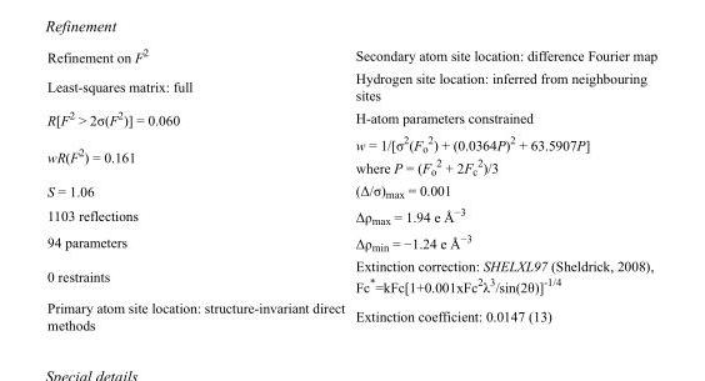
<table><tbody><tr><td>Refinement on F<sup>2</sup></td><td>Secondary atom site location: difference Fourier map</td></tr><tr><td>Least-squares matrix: full</td><td>Hydrogen site location: inferred from neighbouring sites</td></tr><tr><td>R[F<sup>2</sup> &gt; 2σ(F<sup>2</sup>)] = 0.060</td><td>H-atom parameters constrained</td></tr><tr><td>wR(F<sup>2</sup>) = 0.161</td><td>w = 1/[σ<sup>2</sup>(F<sub>o</sub> <sup>2</sup>) + (0.0364P)<sup>2</sup> + 63.5907P] where P = (F<sub>o</sub> <sup>2</sup> + 2F<sub>c</sub> <sup>2</sup>)/3</td></tr><tr><td>S = 1.06</td><td>(Δ/σ)<sub>max</sub> = 0.001</td></tr><tr><td>1103 reflections</td><td>Δρ<sub>max</sub> = 1.94 e Å<sup>−3</sup></td></tr><tr><td>94 parameters</td><td>Δρ<sub>min</sub> = −1.24 e Å<sup>−3</sup></td></tr><tr><td>0 restraints</td><td>Extinction correction: SHELXL97 (Sheldrick, 2008), Fc*=kFc[1+0.001xFc<sup>2</sup>λ<sup>3</sup>/sin(2θ)]<sup>-1/4</sup></td></tr><tr><td>Primary atom site location: structure-invariant direct methods</td><td>Extinction coefficient: 0.0147 (13)</td></tr></tbody></table>